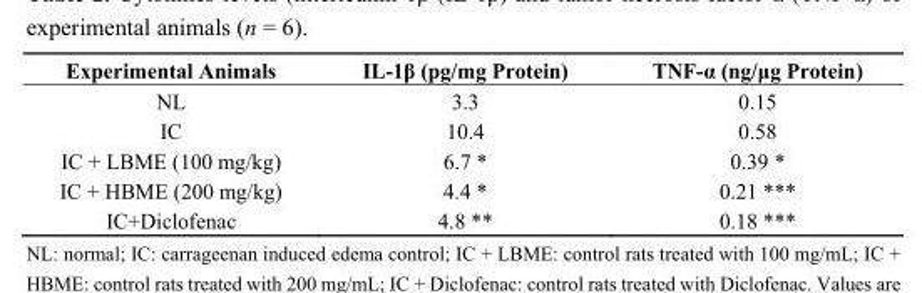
<table><thead><tr><td>Experimental Animals</td><td>IL-1β (pg/mg Protein)</td><td>TNF-α (ng/μg Protein)</td></tr></thead><tbody><tr><td>NL</td><td>3.3</td><td>0.15</td></tr><tr><td>IC</td><td>10.4</td><td>0.58</td></tr><tr><td>IC + LBME (100 mg/kg)</td><td>6.7 *</td><td>0.39 *</td></tr><tr><td>IC + HBME (200 mg/kg)</td><td>4.4 *</td><td>0.21 ***</td></tr><tr><td>IC+Diclofenac</td><td>4.8 **</td><td>0.18 ***</td></tr></tbody></table>